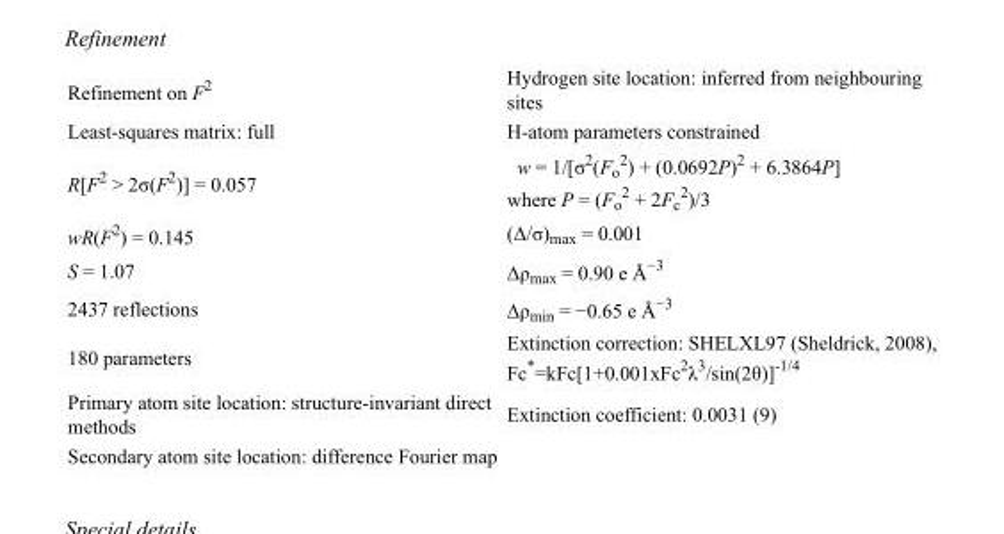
<table><tbody><tr><td>Refinement on F<sup>2</sup></td><td>Hydrogen site location: inferred from neighbouring sites</td></tr><tr><td>Least-squares matrix: full</td><td>H-atom parameters constrained</td></tr><tr><td>R[F<sup>2</sup> &gt; 2σ(F<sup>2</sup>)] = 0.057</td><td>w = 1/[σ<sup>2</sup>(F<sub>o</sub> <sup>2</sup>) + (0.0692P)<sup>2</sup> + 6.3864P] where P = (F<sub>o</sub> <sup>2</sup> + 2F<sub>c</sub> <sup>2</sup>)/3</td></tr><tr><td>wR(F<sup>2</sup>) = 0.145</td><td>(Δ/σ)<sub>max</sub> = 0.001</td></tr><tr><td>S = 1.07</td><td>Δρ<sub>max</sub> = 0.90 e Å<sup>−3</sup></td></tr><tr><td>2437 reflections</td><td>Δρ<sub>min</sub> = −0.65 e Å<sup>−3</sup></td></tr><tr><td>180 parameters</td><td>Extinction correction: SHELXL97 (Sheldrick, 2008), Fc*=kFc[1+0.001xFc<sup>2</sup>λ<sup>3</sup>/sin(2θ)]<sup>-1/4</sup></td></tr><tr><td>Primary atom site location: structure-invariant direct methods</td><td>Extinction coefficient: 0.0031 (9)</td></tr><tr><td>Secondary atom site location: difference Fourier map</td><td></td></tr></tbody></table>